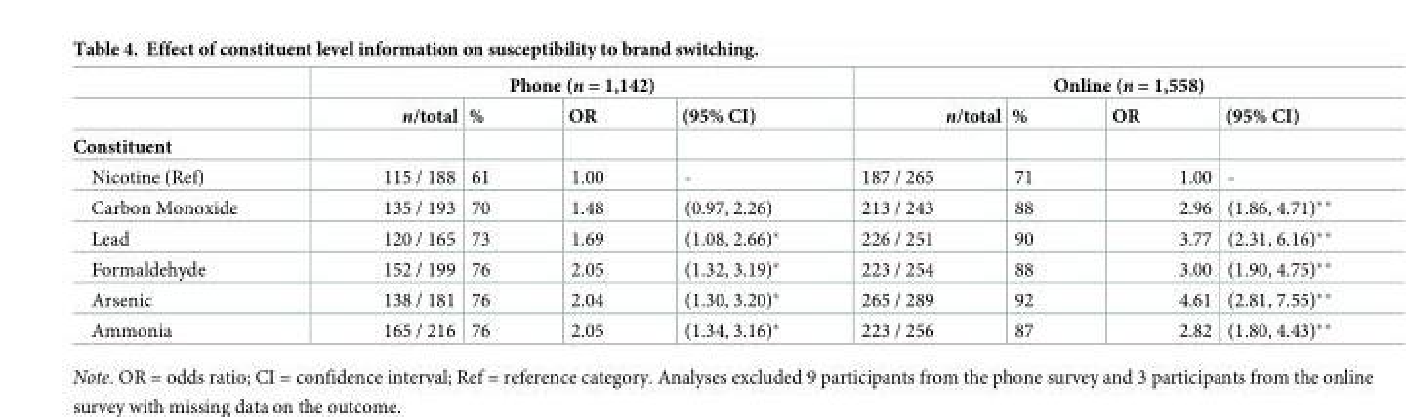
<table><thead><tr><td rowspan="2"></td><td colspan="4">Phone (n = 1,142)</td><td colspan="4">Online (n = 1,558)</td></tr><tr><td>n/total</td><td>%</td><td>OR</td><td>(95% CI)</td><td>n/total</td><td>%</td><td>OR</td><td>(95% CI)</td></tr></thead><tbody><tr><td colspan="9">Constituent</td></tr><tr><td>Nicotine (Ref)</td><td>115 / 188</td><td>61</td><td>1.00</td><td>-</td><td>187 / 265</td><td>71</td><td>1.00</td><td>-</td></tr><tr><td>Carbon Monoxide</td><td>135 / 193</td><td>70</td><td>1.48</td><td>(0.97, 2.26)</td><td>213 / 243</td><td>88</td><td>2.96</td><td>(1.86, 4.71)**</td></tr><tr><td>Lead</td><td>120 / 165</td><td>73</td><td>1.69</td><td>(1.08, 2.66)*</td><td>226 / 251</td><td>90</td><td>3.77</td><td>(2.31, 6.16)**</td></tr><tr><td>Formaldehyde</td><td>152 / 199</td><td>76</td><td>2.05</td><td>(1.32, 3.19)*</td><td>223 / 254</td><td>88</td><td>3.00</td><td>(1.90, 4.75)**</td></tr><tr><td>Arsenic</td><td>138 / 181</td><td>76</td><td>2.04</td><td>(1.30, 3.20)*</td><td>265 / 289</td><td>92</td><td>4.61</td><td>(2.81, 7.55)**</td></tr><tr><td>Ammonia</td><td>165 / 216</td><td>76</td><td>2.05</td><td>(1.34, 3.16)*</td><td>223 / 256</td><td>87</td><td>2.82</td><td>(1.80, 4.43)**</td></tr></tbody></table>